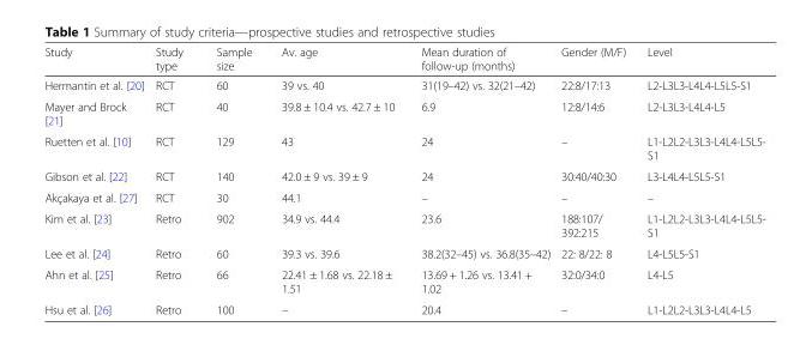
<table><thead><tr><td>Study</td><td>Study type</td><td>Sample size</td><td>Av. age</td><td>Mean duration of follow-up (months)</td><td>Gender (M/F)</td><td>Level</td></tr></thead><tbody><tr><td>Hermantin et al. [20]</td><td>RCT</td><td>60</td><td>39 vs. 40</td><td>31(19–42) vs. 32(21–42)</td><td>22:8/17:13</td><td>L2-L3L3-L4L4-L5L5-S1</td></tr><tr><td>Mayer and Brock [21]</td><td>RCT</td><td>40</td><td>39.8 ± 10.4 vs. 42.7 ± 10</td><td>6.9</td><td>12:8/14:6</td><td>L2-L3L3-L4L4-L5</td></tr><tr><td>Ruetten et al. [10]</td><td>RCT</td><td>129</td><td>43</td><td>24</td><td>–</td><td>L1-L2L2-L3L3-L4L4-L5L5- S1</td></tr><tr><td>Gibson et al. [22]</td><td>RCT</td><td>140</td><td>42.0 ± 9 vs. 39 ± 9</td><td>24</td><td>30:40/40:30</td><td>L3-L4L4-L5L5-S1</td></tr><tr><td>Akçakaya et al. [27]</td><td>RCT</td><td>30</td><td>44.1</td><td>–</td><td>–</td><td>–</td></tr><tr><td>Kim et al. [23]</td><td>Retro</td><td>902</td><td>34.9 vs. 44.4</td><td>23.6</td><td>188:107/ 392:215</td><td>L1-L2L2-L3L3-L4L4-L5L5- S1</td></tr><tr><td>Lee et al. [24]</td><td>Retro</td><td>60</td><td>39.3 vs. 39.6</td><td>38.2(32–45) vs. 36.8(35–42)</td><td>22: 8/22: 8</td><td>L4-L5L5-S1</td></tr><tr><td>Ahn et al. [25]</td><td>Retro</td><td>66</td><td>22.41 ± 1.68 vs. 22.18 ± 1.51</td><td>13.69 + 1.26 vs. 13.41 + 1.02</td><td>32:0/34:0</td><td>L4-L5</td></tr><tr><td>Hsu et al. [26]</td><td>Retro</td><td>100</td><td>–</td><td>20.4</td><td>–</td><td>L1-L2L2-L3L3-L4L4-L5</td></tr></tbody></table>